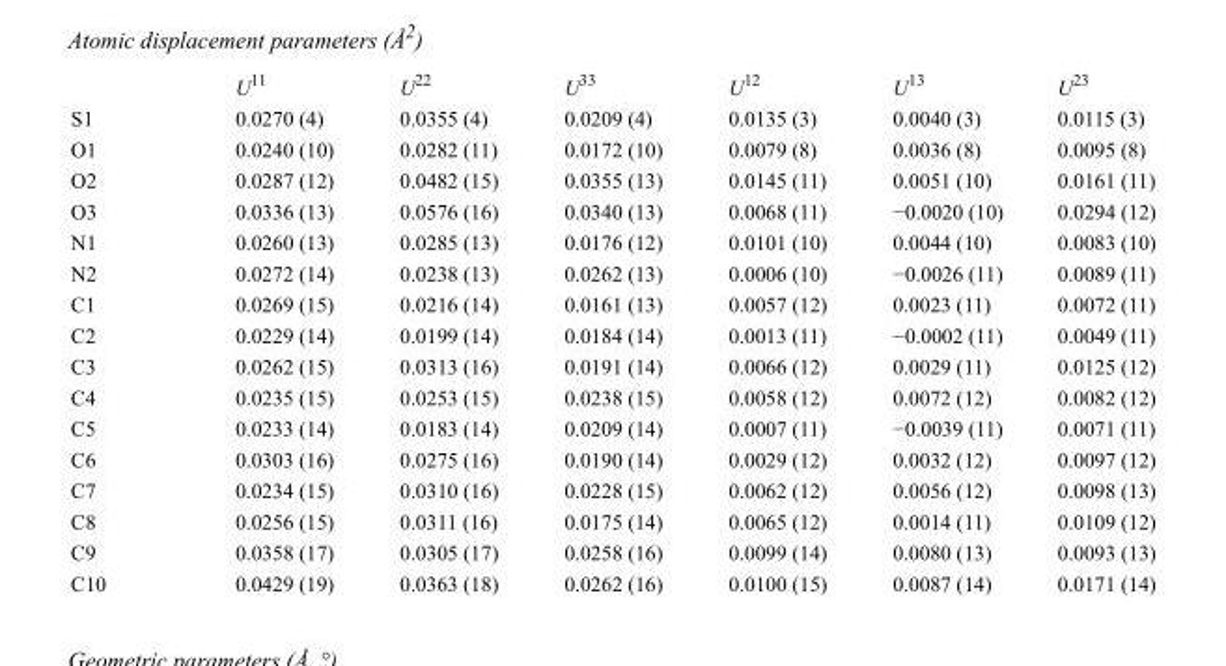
<table><thead><tr><td></td><td>U<sup>11</sup></td><td>U<sup>22</sup></td><td>U<sup>33</sup></td><td>U<sup>12</sup></td><td>U<sup>13</sup></td><td>U<sup>23</sup></td></tr></thead><tbody><tr><td>S1</td><td>0.0270 (4)</td><td>0.0355 (4)</td><td>0.0209 (4)</td><td>0.0135 (3)</td><td>0.0040 (3)</td><td>0.0115 (3)</td></tr><tr><td>O1</td><td>0.0240 (10)</td><td>0.0282 (11)</td><td>0.0172 (10)</td><td>0.0079 (8)</td><td>0.0036 (8)</td><td>0.0095 (8)</td></tr><tr><td>O2</td><td>0.0287 (12)</td><td>0.0482 (15)</td><td>0.0355 (13)</td><td>0.0145 (11)</td><td>0.0051 (10)</td><td>0.0161 (11)</td></tr><tr><td>O3</td><td>0.0336 (13)</td><td>0.0576 (16)</td><td>0.0340 (13)</td><td>0.0068 (11)</td><td>−0.0020 (10)</td><td>0.0294 (12)</td></tr><tr><td>N1</td><td>0.0260 (13)</td><td>0.0285 (13)</td><td>0.0176 (12)</td><td>0.0101 (10)</td><td>0.0044 (10)</td><td>0.0083 (10)</td></tr><tr><td>N2</td><td>0.0272 (14)</td><td>0.0238 (13)</td><td>0.0262 (13)</td><td>0.0006 (10)</td><td>−0.0026 (11)</td><td>0.0089 (11)</td></tr><tr><td>C1</td><td>0.0269 (15)</td><td>0.0216 (14)</td><td>0.0161 (13)</td><td>0.0057 (12)</td><td>0.0023 (11)</td><td>0.0072 (11)</td></tr><tr><td>C2</td><td>0.0229 (14)</td><td>0.0199 (14)</td><td>0.0184 (14)</td><td>0.0013 (11)</td><td>−0.0002 (11)</td><td>0.0049 (11)</td></tr><tr><td>C3</td><td>0.0262 (15)</td><td>0.0313 (16)</td><td>0.0191 (14)</td><td>0.0066 (12)</td><td>0.0029 (11)</td><td>0.0125 (12)</td></tr><tr><td>C4</td><td>0.0235 (15)</td><td>0.0253 (15)</td><td>0.0238 (15)</td><td>0.0058 (12)</td><td>0.0072 (12)</td><td>0.0082 (12)</td></tr><tr><td>C5</td><td>0.0233 (14)</td><td>0.0183 (14)</td><td>0.0209 (14)</td><td>0.0007 (11)</td><td>−0.0039 (11)</td><td>0.0071 (11)</td></tr><tr><td>C6</td><td>0.0303 (16)</td><td>0.0275 (16)</td><td>0.0190 (14)</td><td>0.0029 (12)</td><td>0.0032 (12)</td><td>0.0097 (12)</td></tr><tr><td>C7</td><td>0.0234 (15)</td><td>0.0310 (16)</td><td>0.0228 (15)</td><td>0.0062 (12)</td><td>0.0056 (12)</td><td>0.0098 (13)</td></tr><tr><td>C8</td><td>0.0256 (15)</td><td>0.0311 (16)</td><td>0.0175 (14)</td><td>0.0065 (12)</td><td>0.0014 (11)</td><td>0.0109 (12)</td></tr><tr><td>C9</td><td>0.0358 (17)</td><td>0.0305 (17)</td><td>0.0258 (16)</td><td>0.0099 (14)</td><td>0.0080 (13)</td><td>0.0093 (13)</td></tr><tr><td>C10</td><td>0.0429 (19)</td><td>0.0363 (18)</td><td>0.0262 (16)</td><td>0.0100 (15)</td><td>0.0087 (14)</td><td>0.0171 (14)</td></tr></tbody></table>